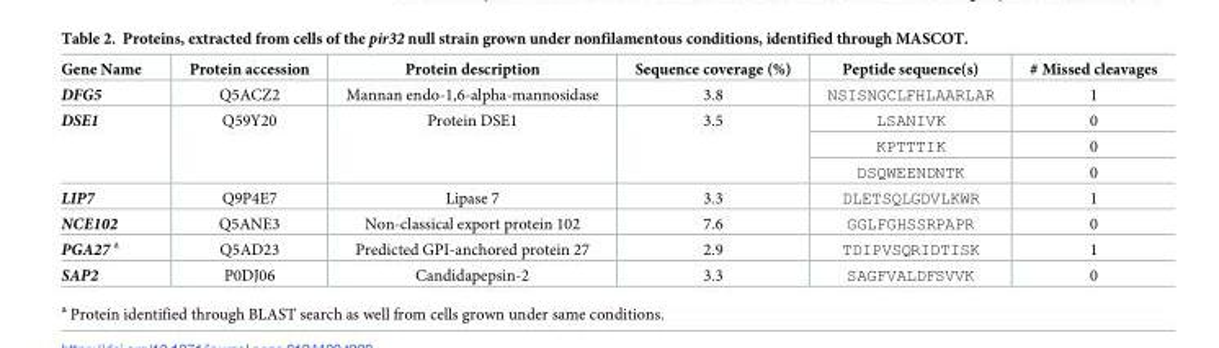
<table><thead><tr><td>Gene Name</td><td>Protein accession</td><td>Protein description</td><td>Sequence coverage (%)</td><td>Peptide sequence(s)</td><td># Missed cleavages</td></tr></thead><tbody><tr><td>DFG5</td><td>Q5ACZ2</td><td>Mannan endo-1,6-alpha-mannosidase</td><td>3.8</td><td>NSISNGCLFHLAARLAR</td><td>1</td></tr><tr><td rowspan="3">DSE1</td><td rowspan="3">Q59Y20</td><td rowspan="3">Protein DSE1</td><td rowspan="3">3.5</td><td>LSANIVK</td><td>0</td></tr><tr><td>KPTTTIK</td><td>0</td></tr><tr><td>DSQWEENDNTK</td><td>0</td></tr><tr><td>LIP7</td><td>Q9P4E7</td><td>Lipase 7</td><td>3.3</td><td>DLETSQLGDVLKWR</td><td>1</td></tr><tr><td>NCE102</td><td>Q5ANE3</td><td>Non-classical export protein 102</td><td>7.6</td><td>GGLFGHSSRPAPR</td><td>0</td></tr><tr><td>PGA27 <sup>a</sup></td><td>Q5AD23</td><td>Predicted GPI-anchored protein 27</td><td>2.9</td><td>TDIPVSQRIDTISK</td><td>1</td></tr><tr><td>SAP2</td><td>P0DJ06</td><td>Candidapepsin-2</td><td>3.3</td><td>SAGFVALDFSVVK</td><td>0</td></tr></tbody></table>